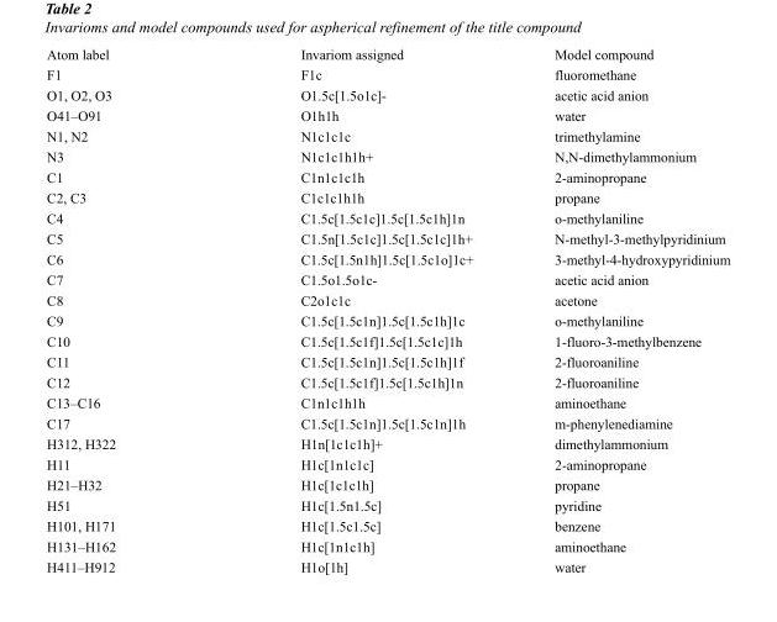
<table><thead><tr><td>Atom label</td><td>Invariom assigned</td><td>Model compound</td></tr></thead><tbody><tr><td>F1</td><td>F1c</td><td>fluoromethane</td></tr><tr><td>O1, O2, O3</td><td>O1.5c[1.5o1c]-</td><td>acetic acid anion</td></tr><tr><td>O41–O91</td><td>O1h1h</td><td>water</td></tr><tr><td>N1, N2</td><td>N1c1c1c</td><td>trimethylamine</td></tr><tr><td>N3</td><td>N1c1c1h1h+</td><td>N,N-dimethylammonium</td></tr><tr><td>C1</td><td>C1n1c1c1h</td><td>2-aminopropane</td></tr><tr><td>C2, C3</td><td>C1c1c1h1h</td><td>propane</td></tr><tr><td>C4</td><td>C1.5c[1.5c1c]1.5c[1.5c1h]1n</td><td>o-methylaniline</td></tr><tr><td>C5</td><td>C1.5n[1.5c1c]1.5c[1.5c1c]1h+</td><td>N-methyl-3-methylpyridinium</td></tr><tr><td>C6</td><td>C1.5c[1.5n1h]1.5c[1.5c1o]1c+</td><td>3-methyl-4-hydroxypyridinium</td></tr><tr><td>C7</td><td>C1.5o1.5o1c-</td><td>acetic acid anion</td></tr><tr><td>C8</td><td>C2o1c1c</td><td>acetone</td></tr><tr><td>C9</td><td>C1.5c[1.5c1n]1.5c[1.5c1h]1c</td><td>o-methylaniline</td></tr><tr><td>C10</td><td>C1.5c[1.5c1f]1.5c[1.5c1c]1h</td><td>1-fluoro-3-methylbenzene</td></tr><tr><td>C11</td><td>C1.5c[1.5c1n]1.5c[1.5c1h]1f</td><td>2-fluoroaniline</td></tr><tr><td>C12</td><td>C1.5c[1.5c1f]1.5c[1.5c1h]1n</td><td>2-fluoroaniline</td></tr><tr><td>C13–C16</td><td>C1n1c1h1h</td><td>aminoethane</td></tr><tr><td>C17</td><td>C1.5c[1.5c1n]1.5c[1.5c1n]1h</td><td>m-phenylenediamine</td></tr><tr><td>H312, H322</td><td>H1n[1c1c1h]+</td><td>dimethylammonium</td></tr><tr><td>H11</td><td>H1c[1n1c1c]</td><td>2-aminopropane</td></tr><tr><td>H21–H32</td><td>H1c[1c1c1h]</td><td>propane</td></tr><tr><td>H51</td><td>H1c[1.5n1.5c]</td><td>pyridine</td></tr><tr><td>H101, H171</td><td>H1c[1.5c1.5c]</td><td>benzene</td></tr><tr><td>H131–H162</td><td>H1c[1n1c1h]</td><td>aminoethane</td></tr><tr><td>H411–H912</td><td>H1o[1h]</td><td>water</td></tr></tbody></table>